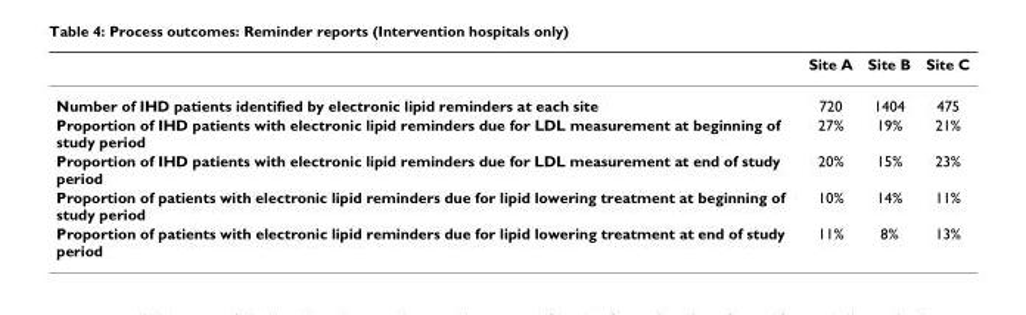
<table><thead><tr><td></td><td>Site A</td><td>Site B</td><td>Site C</td></tr></thead><tbody><tr><td>Number of IHD patients identified by electronic lipid reminders at each site</td><td>720</td><td>1404</td><td>475</td></tr><tr><td>Proportion of IHD patients with electronic lipid reminders due for LDL measurement at beginning of study period</td><td>27%</td><td>19%</td><td>21%</td></tr><tr><td>Proportion of IHD patients with electronic lipid reminders due for LDL measurement at end of study period</td><td>20%</td><td>15%</td><td>23%</td></tr><tr><td>Proportion of patients with electronic lipid reminders due for lipid lowering treatment at beginning of study period</td><td>10%</td><td>14%</td><td>11%</td></tr><tr><td>Proportion of patients with electronic lipid reminders due for lipid lowering treatment at end of study period</td><td>11%</td><td>8%</td><td>13%</td></tr></tbody></table>